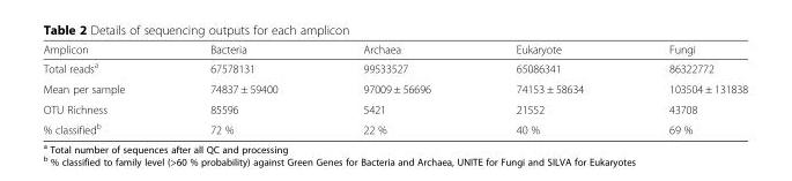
<table><thead><tr><td>Amplicon</td><td>Bacteria</td><td>Archaea</td><td>Eukaryote</td><td>Fungi</td></tr></thead><tbody><tr><td>Total reads<sup>a</sup></td><td>67578131</td><td>99533527</td><td>65086341</td><td>86322772</td></tr><tr><td>Mean per sample</td><td>74837 ± 59400</td><td>97009 ± 56696</td><td>74153 ± 58634</td><td>103504 ± 131838</td></tr><tr><td>OTU Richness</td><td>85596</td><td>5421</td><td>21552</td><td>43708</td></tr><tr><td>% classified<sup>b</sup></td><td>72 %</td><td>22 %</td><td>40 %</td><td>69 %</td></tr></tbody></table>